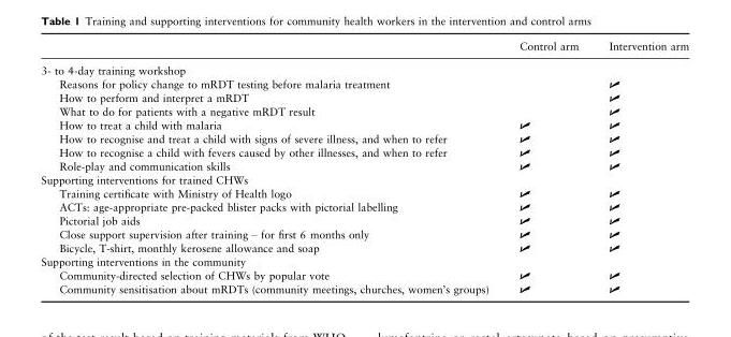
<table><thead><tr><td></td><td>Control arm</td><td>Intervention arm</td></tr></thead><tbody><tr><td colspan="3">3- to 4-day training workshop</td></tr><tr><td>Reasons for policy change to mRDT testing before malaria treatment</td><td></td><td>✓</td></tr><tr><td>How to perform and interpret a mRDT</td><td></td><td>✓</td></tr><tr><td>What to do for patients with a negative mRDT result</td><td></td><td>✓</td></tr><tr><td>How to treat a child with malaria</td><td>✓</td><td>✓</td></tr><tr><td>How to recognise and treat a child with signs of severe illness, and when to refer</td><td>✓</td><td>✓</td></tr><tr><td>How to recognise a child with fevers caused by other illnesses, and when to refer</td><td>✓</td><td>✓</td></tr><tr><td>Role-play and communication skills</td><td>✓</td><td>✓</td></tr><tr><td colspan="3">Supporting interventions for trained CHWs</td></tr><tr><td>Training certificate with Ministry of Health logo</td><td>✓</td><td>✓</td></tr><tr><td>ACTs: age-appropriate pre-packed blister packs with pictorial labelling</td><td>✓</td><td>✓</td></tr><tr><td>Pictorial job aids</td><td>✓</td><td>✓</td></tr><tr><td>Close support supervision after training – for first 6 months only</td><td>✓</td><td>✓</td></tr><tr><td>Bicycle, T-shirt, monthly kerosene allowance and soap</td><td>✓</td><td>✓</td></tr><tr><td colspan="3">Supporting interventions in the community</td></tr><tr><td>Community-directed selection of CHWs by popular vote</td><td>✓</td><td>✓</td></tr><tr><td>Community sensitisation about mRDTs (community meetings, churches, women’s groups)</td><td>✓</td><td>✓</td></tr></tbody></table>